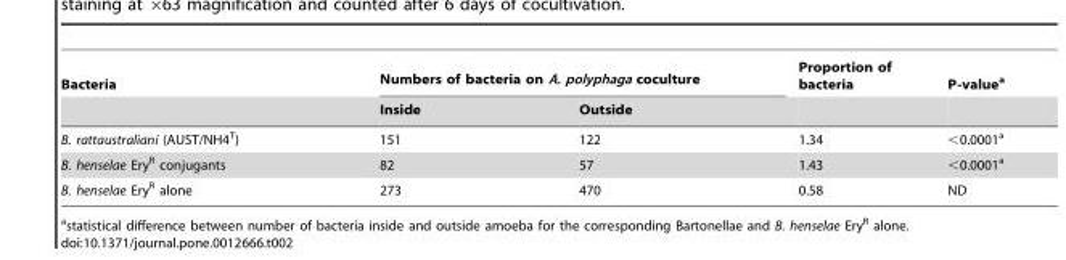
<table><thead><tr><td rowspan="2">Bacteria</td><td colspan="2">Numbers of bacteria on A. polyphaga coculture</td><td rowspan="2">Proportion of bacteria</td><td rowspan="2">P-value<sup>a</sup></td></tr><tr><td>Inside</td><td>Outside</td></tr></thead><tbody><tr><td>B. rattaustraliani (AUST/NH4<sup>T</sup>)</td><td>151</td><td>122</td><td>1.34</td><td>&lt;0.0001<sup>a</sup></td></tr><tr><td>B. henselae Ery<sup>R</sup> conjugants</td><td>82</td><td>57</td><td>1.43</td><td>&lt;0.0001<sup>a</sup></td></tr><tr><td>B. henselae Ery<sup>R</sup> alone</td><td>273</td><td>470</td><td>0.58</td><td>ND</td></tr></tbody></table>